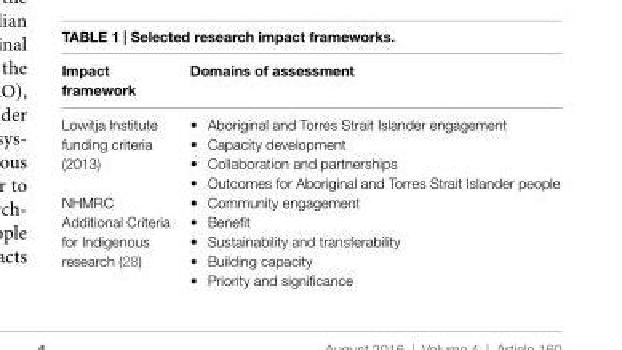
<table><thead><tr><td>impact framework</td><td>Domains of assessment</td></tr></thead><tbody><tr><td>Lowitja Institute funding criteria (2013)</td><td>• Aboriginal and Torres Strait Islander engagement • Capacity development • Collaboration and partnerships • Outcomes for Aboriginal and Torres Strait Islander people</td></tr><tr><td>NHMRC Additional Criteria for Indigenous research (28)</td><td>• Community engagement • Benefit • Sustainability and transferability • Building capacity • Priority and significance</td></tr></tbody></table>